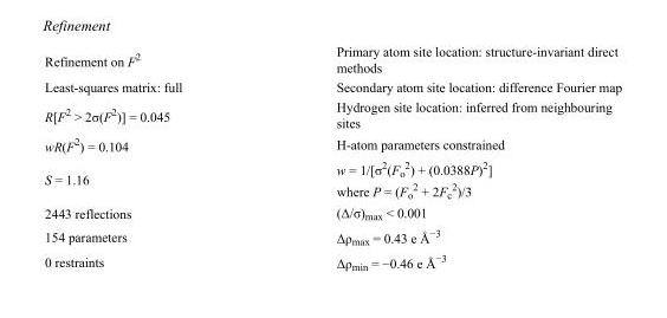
<table><tbody><tr><td>Refinement on F<sup>2</sup></td><td>Primary atom site location: structure-invariant direct methods</td></tr><tr><td>Least-squares matrix: full</td><td>Secondary atom site location: difference Fourier map</td></tr><tr><td>R[F<sup>2</sup> &gt; 2σ(F<sup>2</sup>)] = 0.045</td><td>Hydrogen site location: inferred from neighbouring sites</td></tr><tr><td>wR(F<sup>2</sup>) = 0.104</td><td>H-atom parameters constrained</td></tr><tr><td>S = 1.16</td><td>w = 1/[σ<sup>2</sup>(F<sub>o</sub> <sup>2</sup>) + (0.0388P)<sup>2</sup>] where P = (F<sub>o</sub> <sup>2</sup> + 2F<sub>c</sub> <sup>2</sup>)/3</td></tr><tr><td>2443 reflections</td><td>(Δ/σ)<sub>max</sub> &lt; 0.001</td></tr><tr><td>154 parameters</td><td>Δρ<sub>max</sub> = 0.43 e Å<sup>−3</sup></td></tr><tr><td>0 restraints</td><td>Δρ<sub>min</sub> = −0.46 e Å<sup>−3</sup></td></tr></tbody></table>